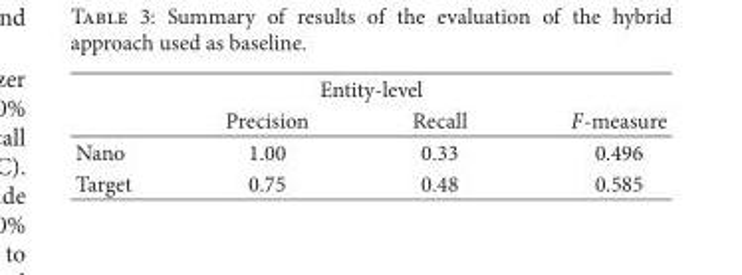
<table><thead><tr><td colspan="4">Entity-level</td></tr><tr><td></td><td>Precision</td><td>Recall</td><td>F-measure</td></tr></thead><tbody><tr><td>Nano</td><td>1.00</td><td>0.33</td><td>0.496</td></tr><tr><td>Target</td><td>0.75</td><td>0.48</td><td>0.585</td></tr></tbody></table>